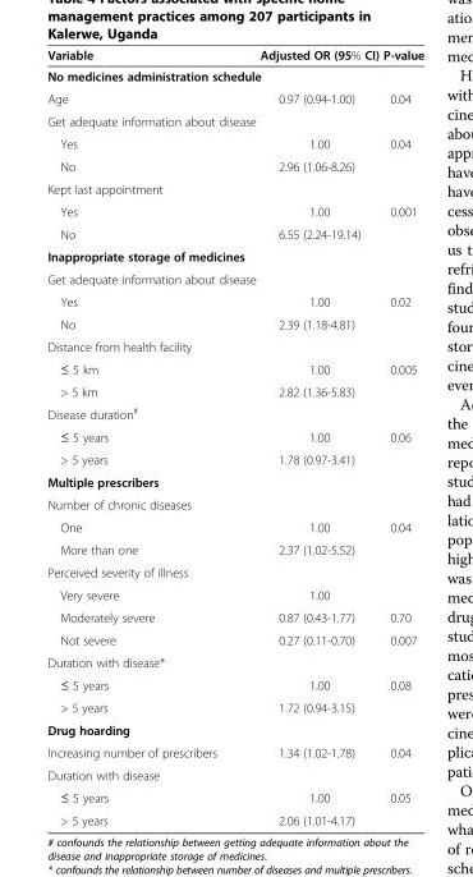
<table><thead><tr><td>Variable</td><td>Adjusted OR (95% CI)</td><td>P-value</td></tr></thead><tbody><tr><td colspan="3">No medicines administration schedule</td></tr><tr><td>Age</td><td>0.97 (0.94-1.00)</td><td>0.04</td></tr><tr><td colspan="3">Get adequate information about disease</td></tr><tr><td>Yes</td><td>1.00</td><td>0.04</td></tr><tr><td>No</td><td>2.96 (1.06-8.26)</td><td></td></tr><tr><td colspan="3">Kept last appointment</td></tr><tr><td>Yes</td><td>1.00</td><td>0.001</td></tr><tr><td>No</td><td>6.55 (2.24-19.14)</td><td></td></tr><tr><td colspan="3">Inappropriate storage of medicines</td></tr><tr><td colspan="3">Get adequate information about disease</td></tr><tr><td>Yes</td><td>1.00</td><td>0.02</td></tr><tr><td>No</td><td>2.39 (1.18-4.81)</td><td></td></tr><tr><td colspan="3">Distance from health facility</td></tr><tr><td>≤ 5 km</td><td>1.00</td><td>0.005</td></tr><tr><td>&gt; 5 km</td><td>2.82 (1.36-5.83)</td><td></td></tr><tr><td colspan="3">Disease duration<sup>#</sup></td></tr><tr><td>≤ 5 years</td><td>1.00</td><td>0.06</td></tr><tr><td>&gt; 5 years</td><td>1.78 (0.97-3.41)</td><td></td></tr><tr><td colspan="3">Multiple prescribers</td></tr><tr><td colspan="3">Number of chronic diseases</td></tr><tr><td>One</td><td>1.00</td><td>0.04</td></tr><tr><td>More than one</td><td>2.37 (1.02-5.52)</td><td></td></tr><tr><td colspan="3">Perceived severity of illness</td></tr><tr><td>Very severe</td><td>1.00</td><td></td></tr><tr><td>Moderately severe</td><td>0.87 (0.43-1.77)</td><td>0.70</td></tr><tr><td>Not severe</td><td>0.27 (0.11-0.70)</td><td>0.007</td></tr><tr><td colspan="3">Duration with disease*</td></tr><tr><td>≤ 5 years</td><td>1.00</td><td>0.08</td></tr><tr><td>&gt; 5 years</td><td>1.72 (0.94-3.15)</td><td></td></tr><tr><td colspan="3">Drug hoarding</td></tr><tr><td>Increasing number of prescribers</td><td>1.34 (1.02-1.78)</td><td>0.04</td></tr><tr><td colspan="3">Duration with disease</td></tr><tr><td>≤ 5 years</td><td>1.00</td><td>0.05</td></tr><tr><td>&gt; 5 years</td><td>2.06 (1.01-4.17)</td><td></td></tr></tbody></table>